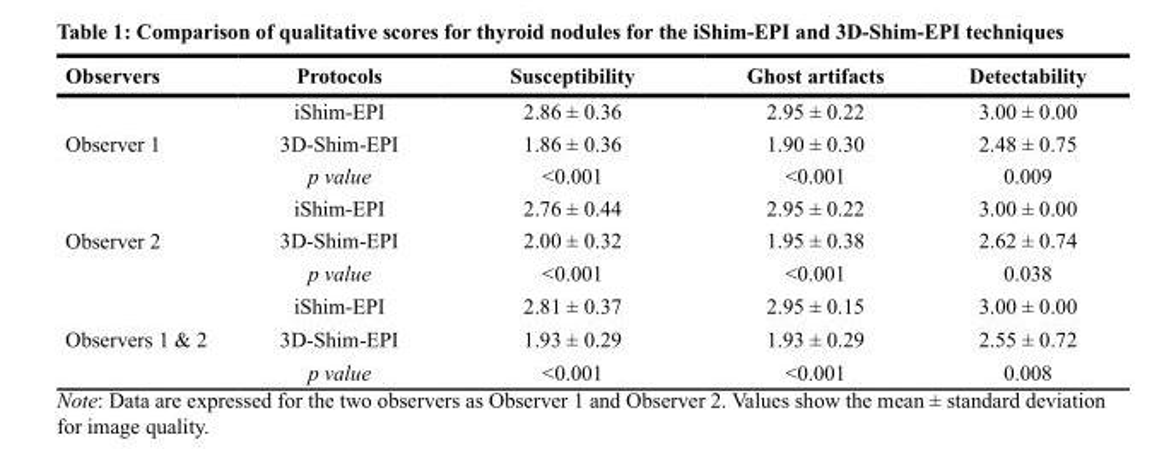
<table><thead><tr><td>Observers</td><td>Protocols</td><td>Susceptibility</td><td>Ghost artifacts</td><td>Detectability</td></tr></thead><tbody><tr><td rowspan="3">Observer 1</td><td>iShimEPI</td><td>2.86 ± 0.36</td><td>2.95 ± 0.22</td><td>3.00 ± 0.00</td></tr><tr><td>3DShimEPI</td><td>1.86 ± 0.36</td><td>1.90 ± 0.30</td><td>2.48 ± 0.75</td></tr><tr><td>p value</td><td>&lt;0.001</td><td>&lt;0.001</td><td>0.009</td></tr><tr><td rowspan="3">Observer 2</td><td>iShimEPI</td><td>2.76 ± 0.44</td><td>2.95 ± 0.22</td><td>3.00 ± 0.00</td></tr><tr><td>3DShimEPI</td><td>2.00 ± 0.32</td><td>1.95 ± 0.38</td><td>2.62 ± 0.74</td></tr><tr><td>p value</td><td>&lt;0.001</td><td>&lt;0.001</td><td>0.038</td></tr><tr><td rowspan="3">Observers 1 &amp; 2</td><td>iShimEPI</td><td>2.81 ± 0.37</td><td>2.95 ± 0.15</td><td>3.00 ± 0.00</td></tr><tr><td>3DShimEPI</td><td>1.93 ± 0.29</td><td>1.93 ± 0.29</td><td>2.55 ± 0.72</td></tr><tr><td>p value</td><td>&lt;0.001</td><td>&lt;0.001</td><td>0.008</td></tr></tbody></table>